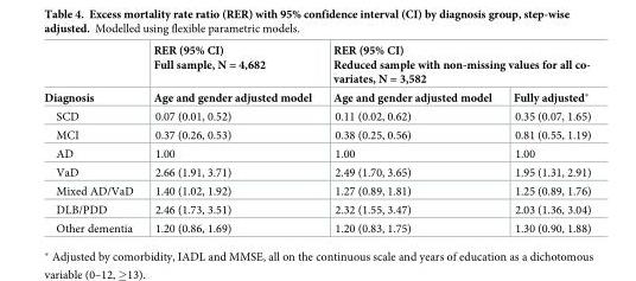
<table><thead><tr><td rowspan="2">Diagnosis</td><td rowspan="2">RER (95% CI) Full sample, N = 4,682 Age and gender adjusted model</td><td colspan="2">RER (95% CI) Reduced sample with non-missing values for all co- variates, N = 3,582</td></tr><tr><td>Age and gender adjusted model</td><td>Fully adjusted*</td></tr></thead><tbody><tr><td>SCD</td><td>0.07 (0.01, 0.52)</td><td>0.11 (0.02, 0.62)</td><td>0.35 (0.07, 1.65)</td></tr><tr><td>MCI</td><td>0.37 (0.26, 0.53)</td><td>0.38 (0.25, 0.56)</td><td>0.81 (0.55, 1.19)</td></tr><tr><td>AD</td><td>1.00</td><td>1.00</td><td>1.00</td></tr><tr><td>VaD</td><td>2.66 (1.91, 3.71)</td><td>2.49 (1.70, 3.65)</td><td>1.95 (1.31, 2.91)</td></tr><tr><td>Mixed AD/VaD</td><td>1.40 (1.02, 1.92)</td><td>1.27 (0.89, 1.81)</td><td>1.25 (0.89, 1.76)</td></tr><tr><td>DLB/PDD</td><td>2.46 (1.73, 3.51)</td><td>2.32 (1.55, 3.47)</td><td>2.03 (1.36, 3.04)</td></tr><tr><td>Other dementia</td><td>1.20 (0.86, 1.69)</td><td>1.20 (0.83, 1.75)</td><td>1.30 (0.90, 1.88)</td></tr></tbody></table>